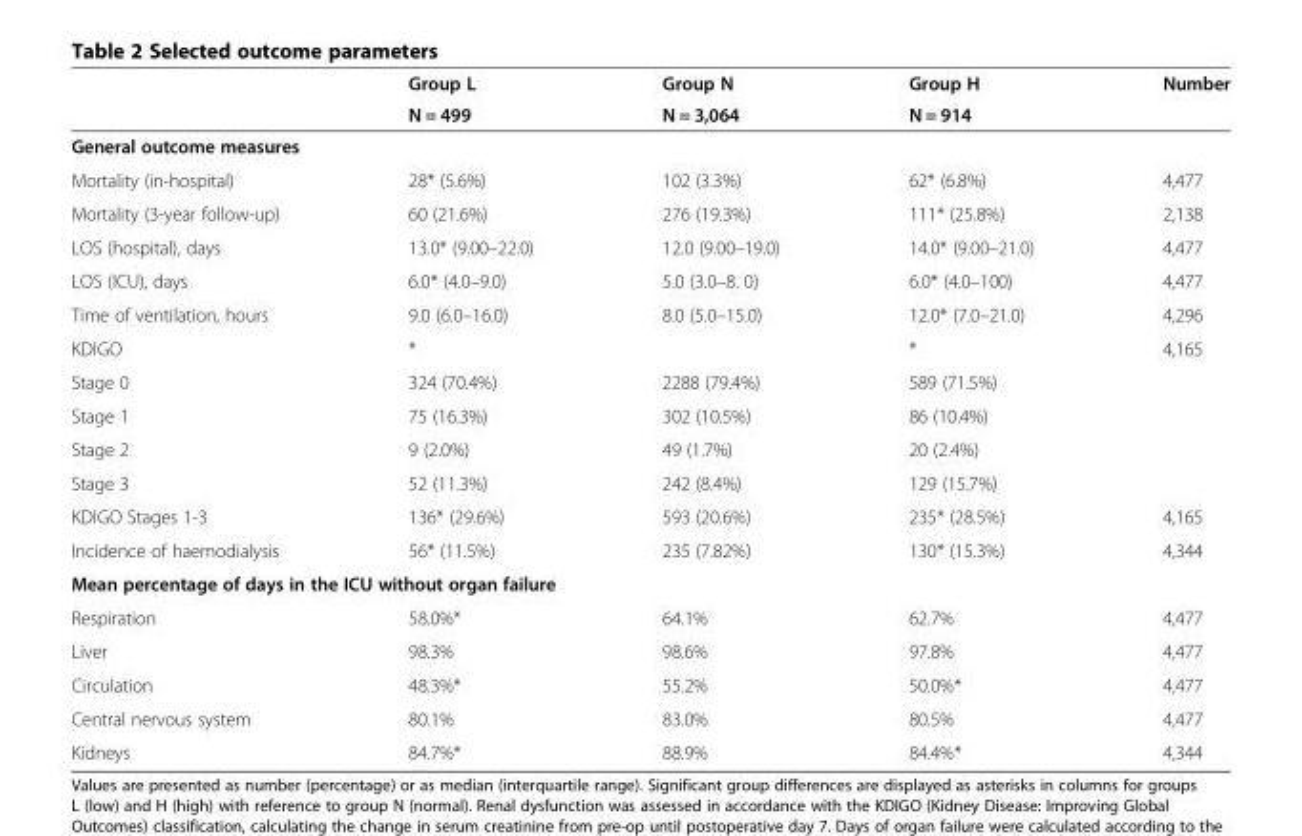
<table><thead><tr><td rowspan="2"></td><td rowspan="2">Group L N = 499</td><td rowspan="2">Group N N = 3,064</td><td rowspan="2">Group H N = 914</td><td rowspan="2">Number</td></tr><tr></tr></thead><tbody><tr><td colspan="5">General outcome measures</td></tr><tr><td>Mortality (in-hospital)</td><td>28* (5.6%)</td><td>102 (3.3%)</td><td>62* (6.8%)</td><td>4,477</td></tr><tr><td>Mortality (3-year follow-up)</td><td>60 (21.6%)</td><td>276 (19.3%)</td><td>111* (25.8%)</td><td>2,138</td></tr><tr><td>LOS (hospital), days</td><td>13.0* (9.00–22.0)</td><td>12.0 (9.00–19.0)</td><td>14.0* (9.00–21.0)</td><td>4,477</td></tr><tr><td>LOS (ICU), days</td><td>6.0* (4.0–9.0)</td><td>5.0 (3.0–8. 0)</td><td>6.0* (4.0–100)</td><td>4,477</td></tr><tr><td>Time of ventilation, hours</td><td>9.0 (6.0–16.0)</td><td>8.0 (5.0–15.0)</td><td>12.0* (7.0–21.0)</td><td>4,296</td></tr><tr><td>KDIGO</td><td>*</td><td></td><td>*</td><td>4,165</td></tr><tr><td>Stage 0</td><td>324 (70.4%)</td><td>2288 (79.4%)</td><td>589 (71.5%)</td><td></td></tr><tr><td>Stage 1</td><td>75 (16.3%)</td><td>302 (10.5%)</td><td>86 (10.4%)</td><td></td></tr><tr><td>Stage 2</td><td>9 (2.0%)</td><td>49 (1.7%)</td><td>20 (2.4%)</td><td></td></tr><tr><td>Stage 3</td><td>52 (11.3%)</td><td>242 (8.4%)</td><td>129 (15.7%)</td><td></td></tr><tr><td>KDIGO Stages 1-3</td><td>136* (29.6%)</td><td>593 (20.6%)</td><td>235* (28.5%)</td><td>4,165</td></tr><tr><td>Incidence of haemodialysis</td><td>56* (11.5%)</td><td>235 (7.82%)</td><td>130* (15.3%)</td><td>4,344</td></tr><tr><td colspan="5">Mean percentage of days in the ICU without organ failure</td></tr><tr><td>Respiration</td><td>58.0%*</td><td>64.1%</td><td>62.7%</td><td>4,477</td></tr><tr><td>Liver</td><td>98.3%</td><td>98.6%</td><td>97.8%</td><td>4,477</td></tr><tr><td>Circulation</td><td>48.3%*</td><td>55.2%</td><td>50.0%*</td><td>4,477</td></tr><tr><td>Central nervous system</td><td>80.1%</td><td>83.0%</td><td>80.5%</td><td>4,477</td></tr><tr><td>Kidneys</td><td>84.7%*</td><td>88.9%</td><td>84.4%*</td><td>4,344</td></tr></tbody></table>